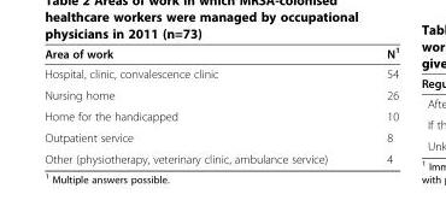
<table><thead><tr><td>Area of work</td><td>N<sup>1</sup></td></tr></thead><tbody><tr><td>Hospital, clinic, convalescence clinic</td><td>54</td></tr><tr><td>Nursing home</td><td>26</td></tr><tr><td>Home for the handicapped</td><td>10</td></tr><tr><td>Outpatient service</td><td>8</td></tr><tr><td>Other (physiotherapy, veterinary clinic, ambulance service)</td><td>4</td></tr></tbody></table>